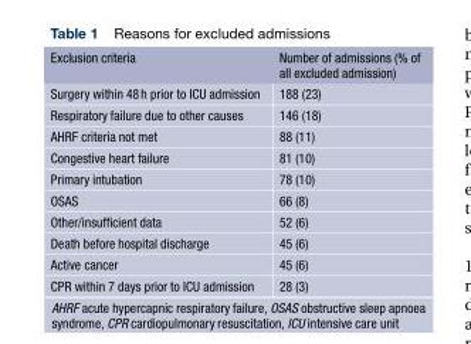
<table><thead><tr><td>Exclusion criteria</td><td>Number of admissions (% of all excluded admission)</td></tr></thead><tbody><tr><td>Surgery within 48h prior to ICU admission</td><td>188 (23)</td></tr><tr><td>Respiratory failure due to other causes</td><td>146 (18)</td></tr><tr><td>AHRF criteria not met</td><td>88 (11)</td></tr><tr><td>Congestive heart failure</td><td>81 (10)</td></tr><tr><td>Primary intubation</td><td>78 (10)</td></tr><tr><td>OSAS</td><td>66 (8)</td></tr><tr><td>Other/insufficient data</td><td>52 (6)</td></tr><tr><td>Death before hospital discharge</td><td>45 (6)</td></tr><tr><td>Active cancer</td><td>45 (6)</td></tr><tr><td>CPR within 7 days prior to ICU admission</td><td>28 (3)</td></tr></tbody></table>